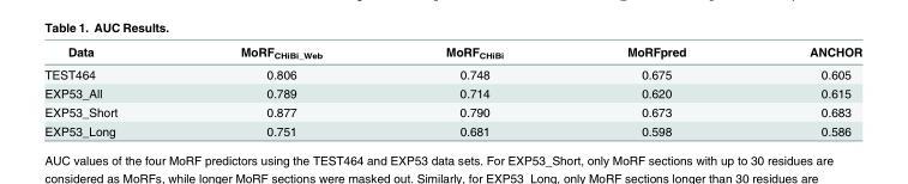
<table><thead><tr><td>Data</td><td>MoRF<sub>CHiBi_Web</sub></td><td>MoRF<sub>CHiBi</sub></td><td>MoRFpred</td><td>ANCHOR</td></tr></thead><tbody><tr><td>TEST464</td><td>0.806</td><td>0.748</td><td>0.675</td><td>0.605</td></tr><tr><td>EXP53_All</td><td>0.789</td><td>0.714</td><td>0.620</td><td>0.615</td></tr><tr><td>EXP53_Short</td><td>0.877</td><td>0.790</td><td>0.673</td><td>0.683</td></tr><tr><td>EXP53_Long</td><td>0.751</td><td>0.681</td><td>0.598</td><td>0.586</td></tr></tbody></table>